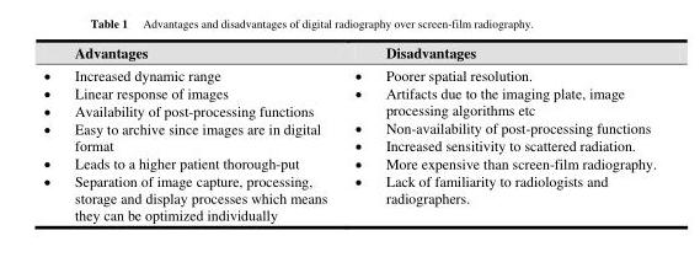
<table><thead><tr><td>Advantages</td><td>Disadvantages</td></tr></thead><tbody><tr><td>• Increased dynamic range • Linear response of images • Availability of post-processing functions • Easy to archive since images are in digital format • Leads to a higher patient thorough-put • Separation of image capture, processing, storage and display processes which means they can be optimized individually</td><td>• Poorer spatial resolution. • Artifacts due to the imaging plate, image processing algorithms etc • Non-availability of post-processing functions • Increased sensitivity to scattered radiation. • More expensive than screen-film radiography. • Lack of familiarity to radiologists and radiographers.</td></tr></tbody></table>